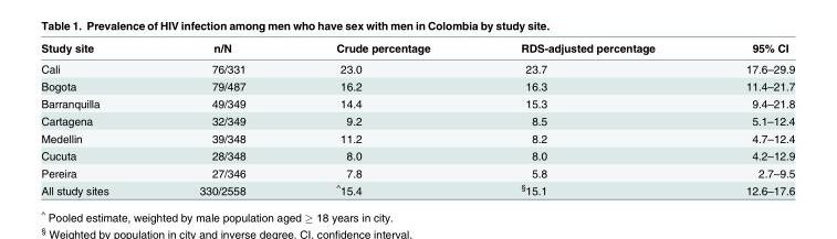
<table><thead><tr><td>Study site</td><td>n/N</td><td>Crude percentage</td><td>RDS-adjusted percentage</td><td>95% CI</td></tr></thead><tbody><tr><td>Cali</td><td>76/331</td><td>23.0</td><td>23.7</td><td>17.6–29.9</td></tr><tr><td>Bogota</td><td>79/487</td><td>16.2</td><td>16.3</td><td>11.4–21.7</td></tr><tr><td>Barranquilla</td><td>49/349</td><td>14.4</td><td>15.3</td><td>9.4–21.8</td></tr><tr><td>Cartagena</td><td>32/349</td><td>9.2</td><td>8.5</td><td>5.1–12.4</td></tr><tr><td>Medellin</td><td>39/348</td><td>11.2</td><td>8.2</td><td>4.7–12.4</td></tr><tr><td>Cucuta</td><td>28/348</td><td>8.0</td><td>8.0</td><td>4.2–12.9</td></tr><tr><td>Pereira</td><td>27/346</td><td>7.8</td><td>5.8</td><td>2.7–9.5</td></tr><tr><td>All study sites</td><td>330/2558</td><td><sup>^</sup>15.4</td><td><sup>§</sup>15.1</td><td>12.6–17.6</td></tr></tbody></table>